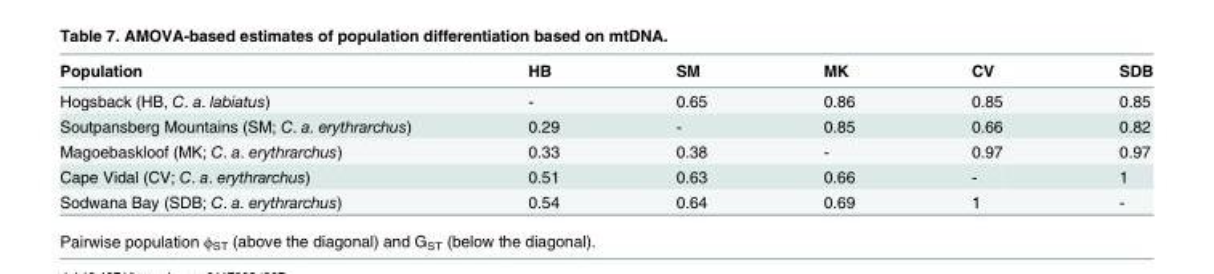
<table><thead><tr><td>Population</td><td>HB</td><td>SM</td><td>MK</td><td>CV</td><td>SDB</td></tr></thead><tbody><tr><td>Hogsback (HB, C. a. labiatus)</td><td>-</td><td>0.65</td><td>0.86</td><td>0.85</td><td>0.85</td></tr><tr><td>Soutpansberg Mountains (SM; C. a. erythrarchus)</td><td>0.29</td><td>-</td><td>0.85</td><td>0.66</td><td>0.82</td></tr><tr><td>Magoebaskloof (MK; C. a. erythrarchus)</td><td>0.33</td><td>0.38</td><td>-</td><td>0.97</td><td>0.97</td></tr><tr><td>Cape Vidal (CV; C. a. erythrarchus)</td><td>0.51</td><td>0.63</td><td>0.66</td><td>-</td><td>1</td></tr><tr><td>Sodwana Bay (SDB; C. a. erythrarchus)</td><td>0.54</td><td>0.64</td><td>0.69</td><td>1</td><td>-</td></tr></tbody></table>